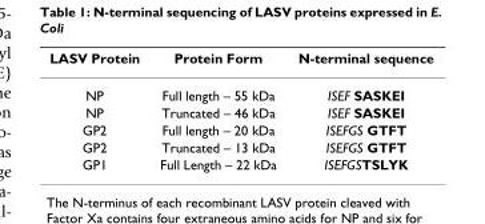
<table><thead><tr><td>LASV Protein</td><td>Protein Form</td><td>N-terminal sequence</td></tr></thead><tbody><tr><td>NP</td><td>Full length – 55 kDa</td><td>ISEF SASKEI</td></tr><tr><td>NP</td><td>Truncated – 46 kDa</td><td>ISEF SASKEI</td></tr><tr><td>GP2</td><td>Full length – 20 kDa</td><td>ISEFGS GTFT</td></tr><tr><td>GP2</td><td>Truncated – 13 kDa</td><td>ISEFGS GTFT</td></tr><tr><td>GP1</td><td>Full Length – 22 kDa</td><td>ISEFGSTSLYK</td></tr></tbody></table>